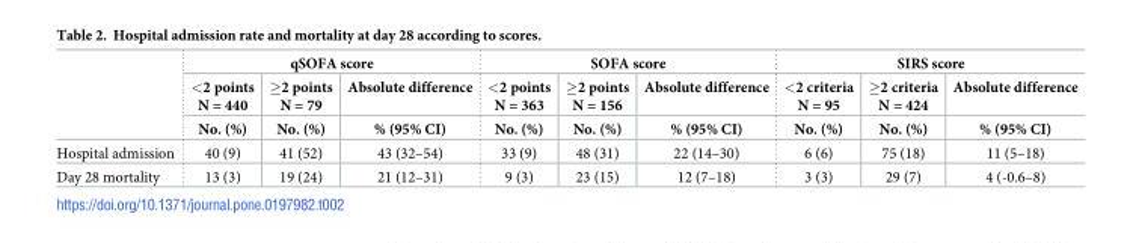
<table><thead><tr><td rowspan="3"></td><td colspan="3">qSOFA score</td><td colspan="3">SOFA score</td><td colspan="3">SIRS score</td></tr><tr><td rowspan="2">&lt;2 points N = 440 No. (%)</td><td rowspan="2">≥2 points N = 79 No. (%)</td><td rowspan="2">Absolute difference % (95% CI)</td><td rowspan="2">&lt;2 points N = 363 No. (%)</td><td rowspan="2">≥2 points N = 156 No. (%)</td><td rowspan="2">Absolute difference % (95% CI)</td><td rowspan="2">&lt;2 criteria N = 95 No. (%)</td><td rowspan="2">≥2 criteria N = 424 No. (%)</td><td rowspan="2">Absolute difference % (95% CI)</td></tr><tr></tr></thead><tbody><tr><td>Hospital admission</td><td>40 (9)</td><td>41 (52)</td><td>43 (32–54)</td><td>33 (9)</td><td>48 (31)</td><td>22 (14–30)</td><td>6 (6)</td><td>75 (18)</td><td>11 (5–18)</td></tr><tr><td>Day 28 mortality</td><td>13 (3)</td><td>19 (24)</td><td>21 (12–31)</td><td>9 (3)</td><td>23 (15)</td><td>12 (7–18)</td><td>3 (3)</td><td>29 (7)</td><td>4 (-0.6–8)</td></tr></tbody></table>